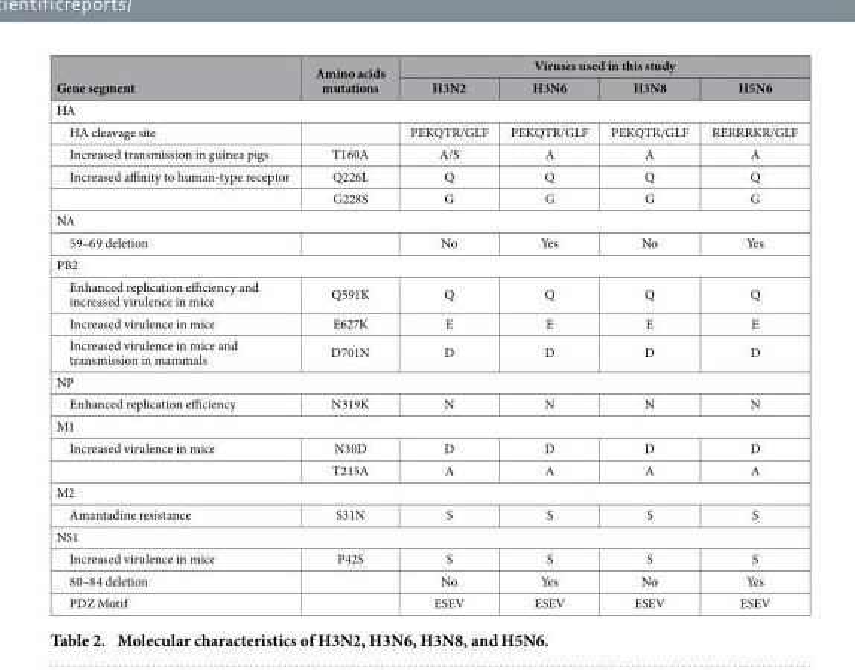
<table><thead><tr><td rowspan="2">Gene segment</td><td rowspan="2">Amino acids mutations</td><td colspan="4">Viruses used in this study</td></tr><tr><td>H3N2</td><td>H3N6</td><td>H3N8</td><td>H5N6</td></tr></thead><tbody><tr><td colspan="6">HA</td></tr><tr><td>HA cleavage site</td><td></td><td>PEKQTR/GLF</td><td>PEKQTR/GLF</td><td>PEKQTR/GLF</td><td>RERRRKR/GLF</td></tr><tr><td>Increased transmission in guinea pigs</td><td>T160A</td><td>A/S</td><td>A</td><td>A</td><td>A</td></tr><tr><td rowspan="2">Increased affinity to human-type receptor</td><td>Q226L</td><td>Q</td><td>Q</td><td>Q</td><td>Q</td></tr><tr><td>G228S</td><td>G</td><td>G</td><td>G</td><td>G</td></tr><tr><td colspan="6">NA</td></tr><tr><td>59–69 deletion</td><td></td><td>No</td><td>Yes</td><td>No</td><td>Yes</td></tr><tr><td colspan="6">PB2</td></tr><tr><td>Enhanced replication efficiency and increased virulence in mice</td><td>Q591K</td><td>Q</td><td>Q</td><td>Q</td><td>Q</td></tr><tr><td>Increased virulence in mice</td><td>E627K</td><td>E</td><td>E</td><td>E</td><td>E</td></tr><tr><td>Increased virulence in mice and transmission in mammals</td><td>D701N</td><td>D</td><td>D</td><td>D</td><td>D</td></tr><tr><td colspan="6">NP</td></tr><tr><td>Enhanced replication efficiency</td><td>N319K</td><td>N</td><td>N</td><td>N</td><td>N</td></tr><tr><td colspan="6">M1</td></tr><tr><td rowspan="2">Increased virulence in mice</td><td>N30D</td><td>D</td><td>D</td><td>D</td><td>D</td></tr><tr><td>T215A</td><td>A</td><td>A</td><td>A</td><td>A</td></tr><tr><td colspan="6">M2</td></tr><tr><td>Amantadine resistance</td><td>S31N</td><td>S</td><td>S</td><td>S</td><td>S</td></tr><tr><td colspan="6">NS1</td></tr><tr><td>Increased virulence in mice</td><td>P42S</td><td>S</td><td>S</td><td>S</td><td>S</td></tr><tr><td>80–84 deletion</td><td></td><td>No</td><td>Yes</td><td>No</td><td>Yes</td></tr><tr><td>PDZ Motif</td><td></td><td>ESEV</td><td>ESEV</td><td>ESEV</td><td>ESEV</td></tr></tbody></table>